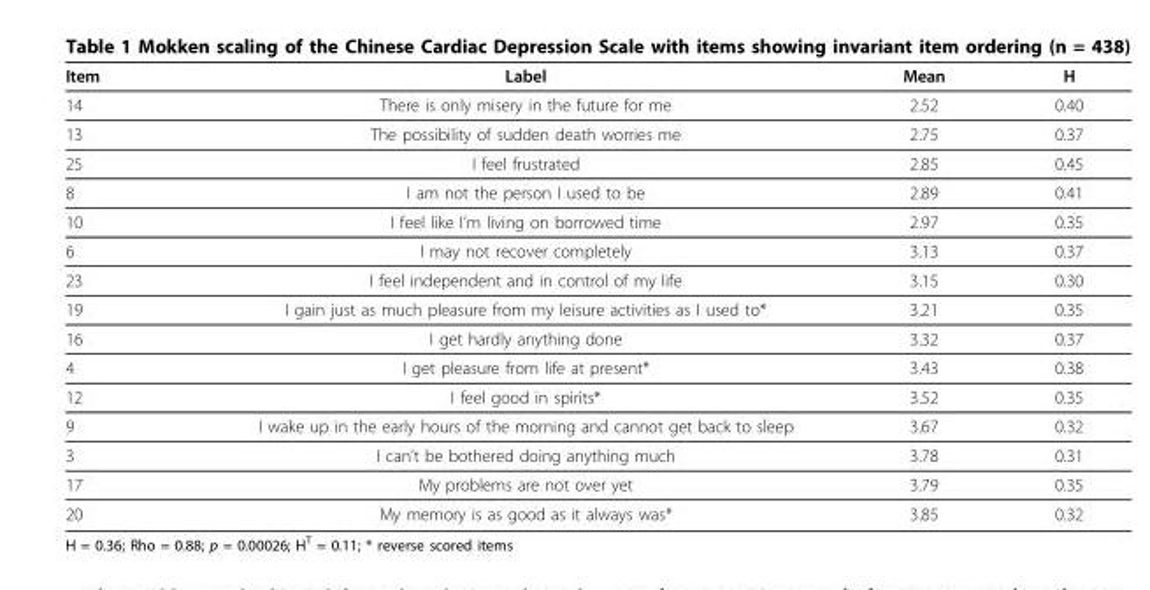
<table><thead><tr><td>Item</td><td>Label</td><td>Mean</td><td>H</td></tr></thead><tbody><tr><td>14</td><td>There is only misery in the future for me</td><td>2.52</td><td>0.40</td></tr><tr><td>13</td><td>The possibility of sudden death worries me</td><td>2.75</td><td>0.37</td></tr><tr><td>25</td><td>I feel frustrated</td><td>2.85</td><td>0.45</td></tr><tr><td>8</td><td>I am not the person I used to be</td><td>2.89</td><td>0.41</td></tr><tr><td>10</td><td>I feel like I’m living on borrowed time</td><td>2.97</td><td>0.35</td></tr><tr><td>6</td><td>I may not recover completely</td><td>3.13</td><td>0.37</td></tr><tr><td>23</td><td>I feel independent and in control of my life</td><td>3.15</td><td>0.30</td></tr><tr><td>19</td><td>I gain just as much pleasure from my leisure activities as I used to*</td><td>3.21</td><td>0.35</td></tr><tr><td>16</td><td>I get hardly anything done</td><td>3.32</td><td>0.37</td></tr><tr><td>4</td><td>I get pleasure from life at present*</td><td>3.43</td><td>0.38</td></tr><tr><td>12</td><td>I feel good in spirits*</td><td>3.52</td><td>0.35</td></tr><tr><td>9</td><td>I wake up in the early hours of the morning and cannot get back to sleep</td><td>3.67</td><td>0.32</td></tr><tr><td>3</td><td>I can’t be bothered doing anything much</td><td>3.78</td><td>0.31</td></tr><tr><td>17</td><td>My problems are not over yet</td><td>3.79</td><td>0.35</td></tr><tr><td>20</td><td>My memory is as good as it always was*</td><td>3.85</td><td>0.32</td></tr></tbody></table>